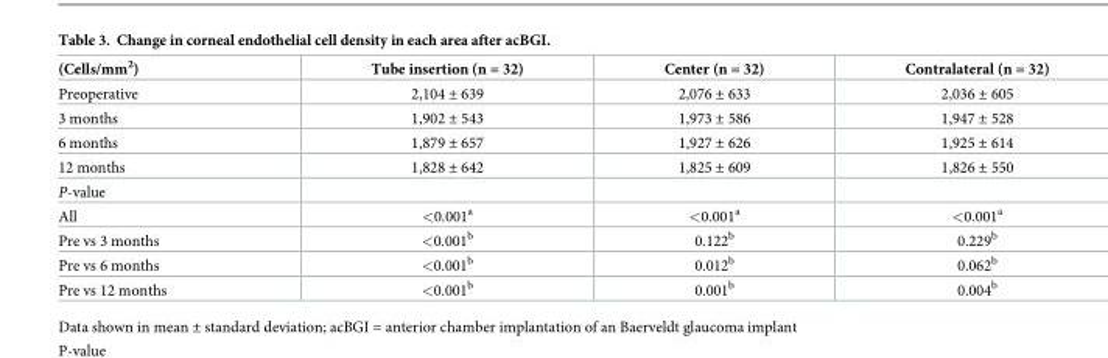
<table><thead><tr><td>(Cells/mm<sup>2</sup>)</td><td>Tube insertion (n = 32)</td><td>Center (n = 32)</td><td>Contralateral (n = 32)</td></tr></thead><tbody><tr><td>Preoperative</td><td>2,104 ± 639</td><td>2,076 ± 633</td><td>2,036 ± 605</td></tr><tr><td>3 months</td><td>1,902 ± 543</td><td>1,973 ± 586</td><td>1,947 ± 528</td></tr><tr><td>6 months</td><td>1,879 ± 657</td><td>1,927 ± 626</td><td>1,925 ± 614</td></tr><tr><td>12 months</td><td>1,828 ± 642</td><td>1,825 ± 609</td><td>1,826 ± 550</td></tr><tr><td colspan="4">P-value</td></tr><tr><td>All</td><td>&lt;0.001<sup>a</sup></td><td>&lt;0.001<sup>a</sup></td><td>&lt;0.001<sup>a</sup></td></tr><tr><td>Pre vs 3 months</td><td>&lt;0.001<sup>b</sup></td><td>0.122<sup>b</sup></td><td>0.229<sup>b</sup></td></tr><tr><td>Pre vs 6 months</td><td>&lt;0.001<sup>b</sup></td><td>0.012<sup>b</sup></td><td>0.062<sup>b</sup></td></tr><tr><td>Pre vs 12 months</td><td>&lt;0.001<sup>b</sup></td><td>0.001<sup>b</sup></td><td>0.004<sup>b</sup></td></tr></tbody></table>